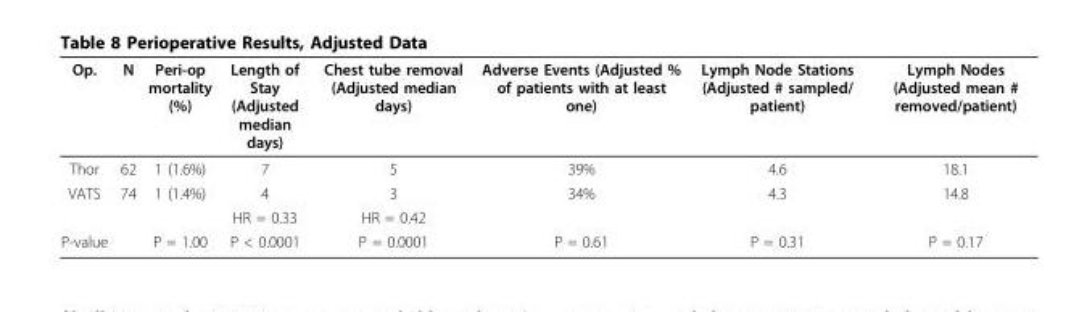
<table><thead><tr><td>Op.</td><td>N</td><td>Peri-op mortality (%)</td><td>Length of Stay (Adjusted median days)</td><td>Chest tube removal (Adjusted median days)</td><td>Adverse Events (Adjusted % of patients with at least one)</td><td>Lymph Node Stations (Adjusted # sampled/ patient)</td><td>Lymph Nodes (Adjusted mean # removed/patient)</td></tr></thead><tbody><tr><td>Thor</td><td>62</td><td>1 (1.6%)</td><td>7</td><td>5</td><td>39%</td><td>4.6</td><td>18.1</td></tr><tr><td rowspan="2">VATS</td><td>74</td><td>1 (1.4%)</td><td>4</td><td>3</td><td>34%</td><td>4.3</td><td>14.8</td></tr><tr><td></td><td></td><td>HR = 0.33</td><td>HR = 0.42</td><td></td><td></td><td></td></tr><tr><td>P-value</td><td></td><td>P = 1.00</td><td>P &lt; 0.0001</td><td>P = 0.0001</td><td>P = 0.61</td><td>P = 0.31</td><td>P = 0.17</td></tr></tbody></table>